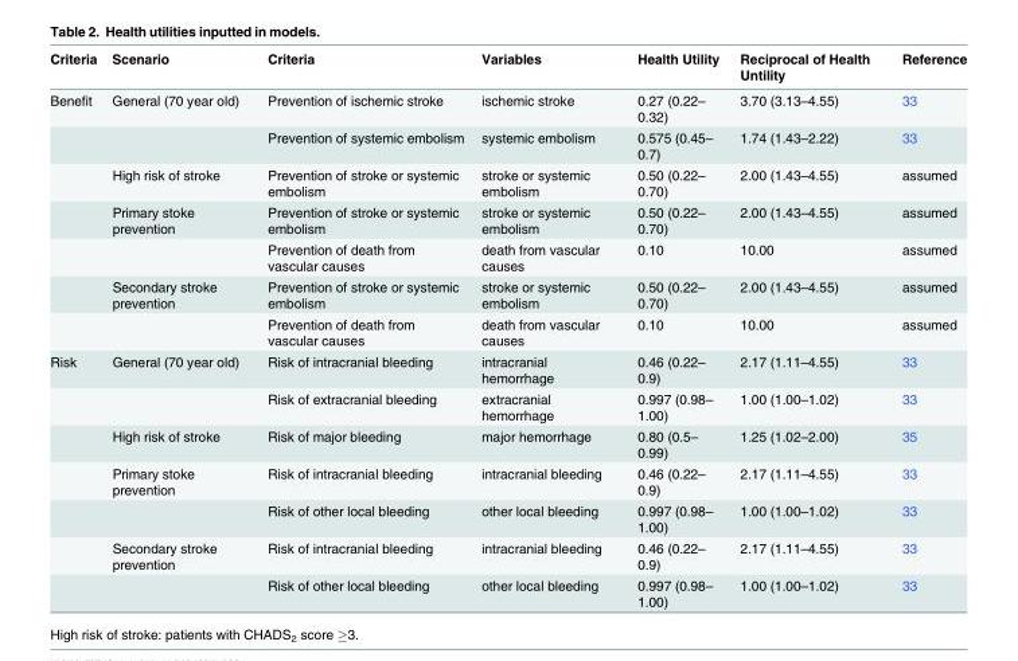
<table><thead><tr><td>Criteria</td><td>Scenario</td><td>Criteria</td><td>Variables</td><td>Health Utility</td><td>Reciprocal of Health Untility</td><td>Reference</td></tr></thead><tbody><tr><td rowspan="7">Benefit</td><td>General (70 year old)</td><td>Prevention of ischemic stroke</td><td>ischemic stroke</td><td>0.27 (0.22– 0.32)</td><td>3.70 (3.13–4.55)</td><td>33</td></tr><tr><td></td><td>Prevention of systemic embolism</td><td>systemic embolism</td><td>0.575 (0.45– 0.7)</td><td>1.74 (1.43–2.22)</td><td>33</td></tr><tr><td>High risk of stroke</td><td>Prevention of stroke or systemic embolism</td><td>stroke or systemic embolism</td><td>0.50 (0.22– 0.70)</td><td>2.00 (1.43–4.55)</td><td>assumed</td></tr><tr><td>Primary stoke prevention</td><td>Prevention of stroke or systemic embolism</td><td>stroke or systemic embolism</td><td>0.50 (0.22– 0.70)</td><td>2.00 (1.43–4.55)</td><td>assumed</td></tr><tr><td></td><td>Prevention of death from vascular causes</td><td>death from vascular causes</td><td>0.10</td><td>10.00</td><td>assumed</td></tr><tr><td>Secondary stroke prevention</td><td>Prevention of stroke or systemic embolism</td><td>stroke or systemic embolism</td><td>0.50 (0.22– 0.70)</td><td>2.00 (1.43–4.55)</td><td>assumed</td></tr><tr><td></td><td>Prevention of death from vascular causes</td><td>death from vascular causes</td><td>0.10</td><td>10.00</td><td>assumed</td></tr><tr><td rowspan="7">Risk</td><td>General (70 year old)</td><td>Risk of intracranial bleeding</td><td>intracranial hemorrhage</td><td>0.46 (0.22– 0.9)</td><td>2.17 (1.11–4.55)</td><td>33</td></tr><tr><td></td><td>Risk of extracranial bleeding</td><td>extracranial hemorrhage</td><td>0.997 (0.98– 1.00)</td><td>1.00 (1.00–1.02)</td><td>33</td></tr><tr><td>High risk of stroke</td><td>Risk of major bleeding</td><td>major hemorrhage</td><td>0.80 (0.5– 0.99)</td><td>1.25 (1.02–2.00)</td><td>35</td></tr><tr><td>Primary stoke prevention</td><td>Risk of intracranial bleeding</td><td>intracranial bleeding</td><td>0.46 (0.22– 0.9)</td><td>2.17 (1.11–4.55)</td><td>33</td></tr><tr><td></td><td>Risk of other local bleeding</td><td>other local bleeding</td><td>0.997 (0.98– 1.00)</td><td>1.00 (1.00–1.02)</td><td>33</td></tr><tr><td>Secondary stroke prevention</td><td>Risk of intracranial bleeding</td><td>intracranial bleeding</td><td>0.46 (0.22– 0.9)</td><td>2.17 (1.11–4.55)</td><td>33</td></tr><tr><td></td><td>Risk of other local bleeding</td><td>other local bleeding</td><td>0.997 (0.98– 1.00)</td><td>1.00 (1.00–1.02)</td><td>33</td></tr></tbody></table>